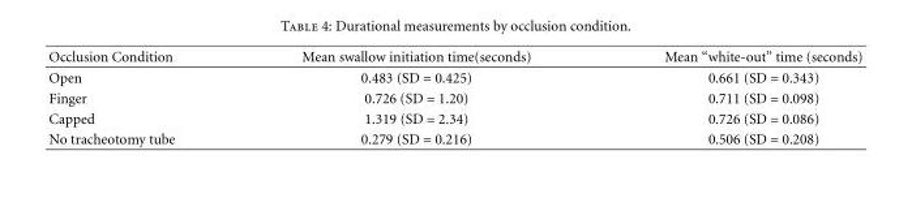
<table><thead><tr><td>Occlusion Condition</td><td>Mean swallow initiation time(seconds)</td><td>Mean “white-out” time (seconds)</td></tr></thead><tbody><tr><td>Open</td><td>0.483 (SD = 0.425)</td><td>0.661 (SD = 0.343)</td></tr><tr><td>Finger</td><td>0.726 (SD = 1.20)</td><td>0.711 (SD = 0.098)</td></tr><tr><td>Capped</td><td>1.319 (SD = 2.34)</td><td>0.726 (SD = 0.086)</td></tr><tr><td>No tracheotomy tube</td><td>0.279 (SD = 0.216)</td><td>0.506 (SD = 0.208)</td></tr></tbody></table>